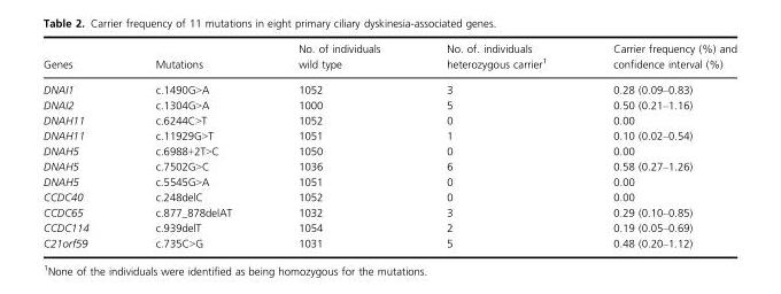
<table><thead><tr><td>Genes</td><td>Mutations</td><td>No. of individuals wild type</td><td>No. of. individuals heterozygous carrier<sup>1</sup></td><td>Carrier frequency (%) and confidence interval (%)</td></tr></thead><tbody><tr><td>DNAI1</td><td>c.1490G&gt;A</td><td>1052</td><td>3</td><td>0.28 (0.09–0.83)</td></tr><tr><td>DNAI2</td><td>c.1304G&gt;A</td><td>1000</td><td>5</td><td>0.50 (0.21–1.16)</td></tr><tr><td>DNAH11</td><td>c.6244C&gt;T</td><td>1052</td><td>0</td><td>0.00</td></tr><tr><td>DNAH11</td><td>c.11929G&gt;T</td><td>1051</td><td>1</td><td>0.10 (0.02–0.54)</td></tr><tr><td>DNAH5</td><td>c.6988+2T&gt;C</td><td>1050</td><td>0</td><td>0.00</td></tr><tr><td>DNAH5</td><td>c.7502G&gt;C</td><td>1036</td><td>6</td><td>0.58 (0.27–1.26)</td></tr><tr><td>DNAH5</td><td>c.5545G&gt;A</td><td>1051</td><td>0</td><td>0.00</td></tr><tr><td>CCDC40</td><td>c.248delC</td><td>1052</td><td>0</td><td>0.00</td></tr><tr><td>CCDC65</td><td>c.877_878delAT</td><td>1032</td><td>3</td><td>0.29 (0.10–0.85)</td></tr><tr><td>CCDC114</td><td>c.939delT</td><td>1054</td><td>2</td><td>0.19 (0.05–0.69)</td></tr><tr><td>C21orf59</td><td>c.735C&gt;G</td><td>1031</td><td>5</td><td>0.48 (0.20–1.12)</td></tr></tbody></table>